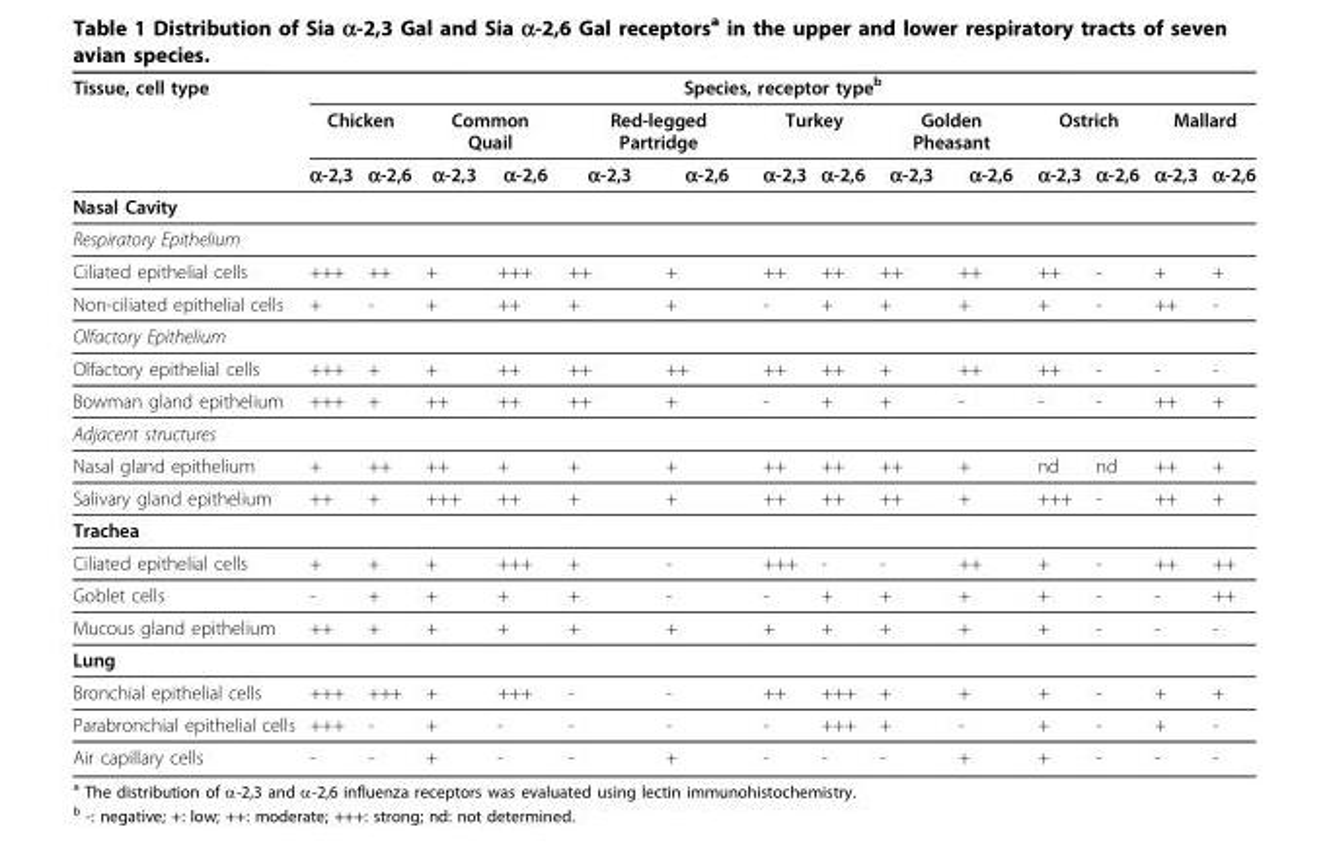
<table><thead><tr><td rowspan="3">Tissue, cell type</td><td colspan="14">Species, receptor type<sup>b</sup></td></tr><tr><td colspan="2">Chicken</td><td colspan="2">Common Quail</td><td colspan="2">Red-legged Partridge</td><td colspan="2">Turkey</td><td colspan="2">Golden Pheasant</td><td colspan="2">Ostrich</td><td colspan="2">Mallard</td></tr><tr><td>α-2,3</td><td>α-2,6</td><td>α-2,3</td><td>α-2,6</td><td>α-2,3</td><td>α-2,6</td><td>α-2,3</td><td>α-2,6</td><td>α-2,3</td><td>α-2,6</td><td>α-2,3</td><td>α-2,6</td><td>α-2,3</td><td>α-2,6</td></tr></thead><tbody><tr><td colspan="15">Nasal Cavity</td></tr><tr><td colspan="15">Respiratory Epithelium</td></tr><tr><td>Ciliated epithelial cells</td><td>+++</td><td>++</td><td>+</td><td>+++</td><td>++</td><td>+</td><td>++</td><td>++</td><td>++</td><td>++</td><td>++</td><td>-</td><td>+</td><td>+</td></tr><tr><td>Non-ciliated epithelial cells</td><td>+</td><td>-</td><td>+</td><td>++</td><td>+</td><td>+</td><td>-</td><td>+</td><td>+</td><td>+</td><td>+</td><td>-</td><td>++</td><td>-</td></tr><tr><td colspan="15">Olfactory Epithelium</td></tr><tr><td>Olfactory epithelial cells</td><td>+++</td><td>+</td><td>+</td><td>++</td><td>++</td><td>++</td><td>++</td><td>++</td><td>+</td><td>++</td><td>++</td><td>-</td><td>-</td><td>-</td></tr><tr><td>Bowman gland epithelium</td><td>+++</td><td>+</td><td>++</td><td>++</td><td>++</td><td>+</td><td>-</td><td>+</td><td>+</td><td>-</td><td>-</td><td>-</td><td>++</td><td>+</td></tr><tr><td colspan="15">Adjacent structures</td></tr><tr><td>Nasal gland epithelium</td><td>+</td><td>++</td><td>++</td><td>+</td><td>+</td><td>+</td><td>++</td><td>++</td><td>++</td><td>+</td><td>nd</td><td>nd</td><td>++</td><td>+</td></tr><tr><td>Salivary gland epithelium</td><td>++</td><td>+</td><td>+++</td><td>++</td><td>+</td><td>+</td><td>++</td><td>++</td><td>++</td><td>+</td><td>+++</td><td>-</td><td>++</td><td>+</td></tr><tr><td colspan="15">Trachea</td></tr><tr><td>Ciliated epithelial cells</td><td>+</td><td>+</td><td>+</td><td>+++</td><td>+</td><td>-</td><td>+++</td><td>-</td><td>-</td><td>++</td><td>+</td><td>-</td><td>++</td><td>++</td></tr><tr><td>Goblet cells</td><td>-</td><td>+</td><td>+</td><td>+</td><td>+</td><td>-</td><td>-</td><td>+</td><td>+</td><td>+</td><td>+</td><td>-</td><td>-</td><td>++</td></tr><tr><td>Mucous gland epithelium</td><td>++</td><td>+</td><td>+</td><td>+</td><td>+</td><td>+</td><td>+</td><td>+</td><td>+</td><td>+</td><td>+</td><td>-</td><td>-</td><td>-</td></tr><tr><td colspan="15">Lung</td></tr><tr><td>Bronchial epithelial cells</td><td>+++</td><td>+++</td><td>+</td><td>+++</td><td>-</td><td>-</td><td>++</td><td>+++</td><td>+</td><td>+</td><td>+</td><td>-</td><td>+</td><td>+</td></tr><tr><td>Parabronchial epithelial cells</td><td>+++</td><td>-</td><td>+</td><td>-</td><td>-</td><td>-</td><td>-</td><td>+++</td><td>+</td><td>-</td><td>+</td><td>-</td><td>+</td><td>-</td></tr><tr><td>Air capillary cells</td><td>-</td><td>-</td><td>+</td><td>-</td><td>-</td><td>+</td><td>-</td><td>-</td><td>-</td><td>+</td><td>+</td><td>-</td><td>-</td><td>-</td></tr></tbody></table>